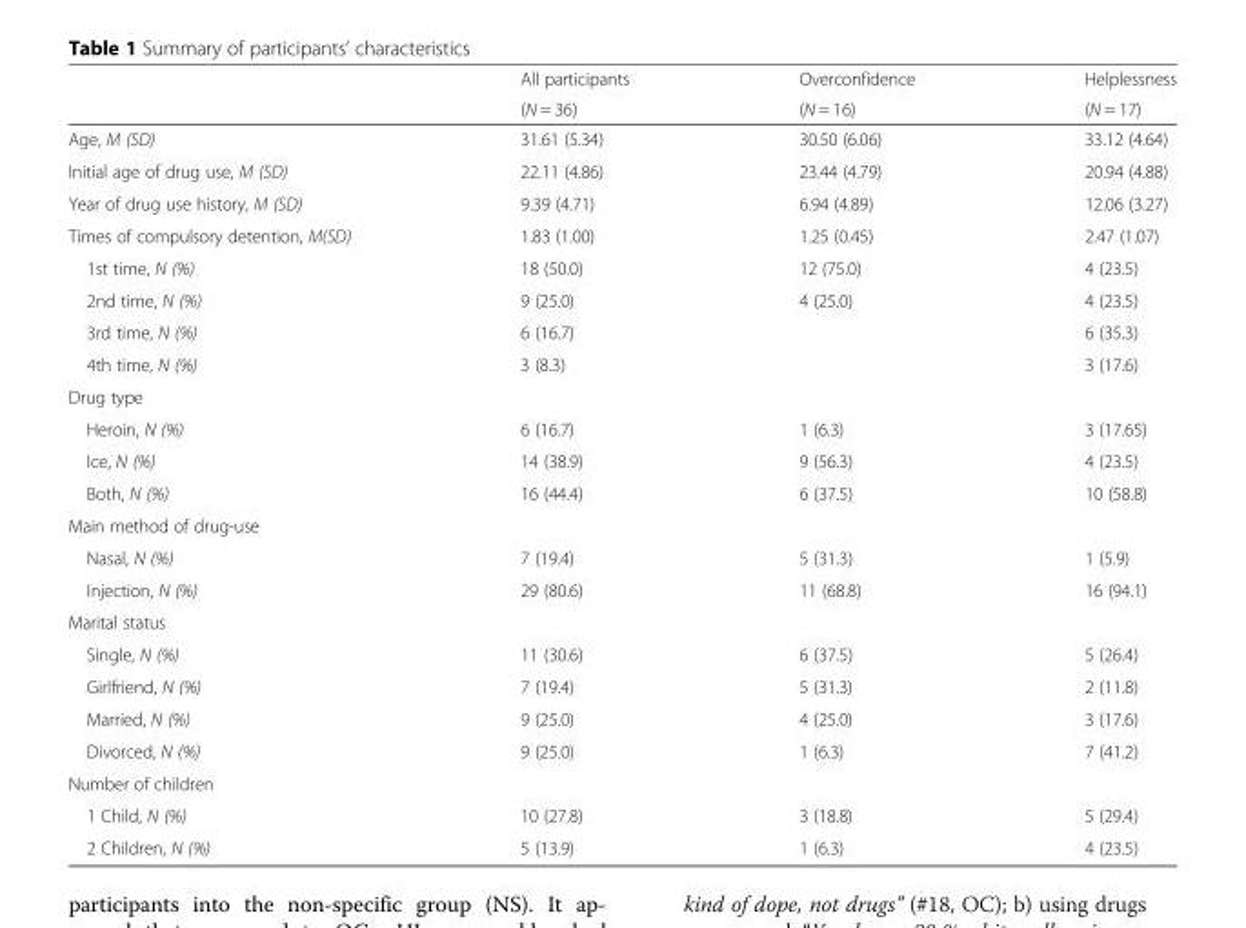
<table><thead><tr><td rowspan="2"></td><td rowspan="2">All participants (N = 36)</td><td rowspan="2">Overconfidence (N = 16)</td><td rowspan="2">Helplessness (N = 17)</td></tr><tr></tr></thead><tbody><tr><td>Age, M (SD)</td><td>31.61 (5.34)</td><td>30.50 (6.06)</td><td>33.12 (4.64)</td></tr><tr><td>Initial age of drug use, M (SD)</td><td>22.11 (4.86)</td><td>23.44 (4.79)</td><td>20.94 (4.88)</td></tr><tr><td>Year of drug use history, M (SD)</td><td>9.39 (4.71)</td><td>6.94 (4.89)</td><td>12.06 (3.27)</td></tr><tr><td>Times of compulsory detention, M(SD)</td><td>1.83 (1.00)</td><td>1.25 (0.45)</td><td>2.47 (1.07)</td></tr><tr><td>1st time, N (%)</td><td>18 (50.0)</td><td>12 (75.0)</td><td>4 (23.5)</td></tr><tr><td>2nd time, N (%)</td><td>9 (25.0)</td><td>4 (25.0)</td><td>4 (23.5)</td></tr><tr><td>3rd time, N (%)</td><td>6 (16.7)</td><td></td><td>6 (35.3)</td></tr><tr><td>4th time, N (%)</td><td>3 (8.3)</td><td></td><td>3 (17.6)</td></tr><tr><td colspan="4">Drug type</td></tr><tr><td>Heroin, N (%)</td><td>6 (16.7)</td><td>1 (6.3)</td><td>3 (17.65)</td></tr><tr><td>Ice, N (%)</td><td>14 (38.9)</td><td>9 (56.3)</td><td>4 (23.5)</td></tr><tr><td>Both, N (%)</td><td>16 (44.4)</td><td>6 (37.5)</td><td>10 (58.8)</td></tr><tr><td colspan="4">Main method of drug-use</td></tr><tr><td>Nasal, N (%)</td><td>7 (19.4)</td><td>5 (31.3)</td><td>1 (5.9)</td></tr><tr><td>Injection, N (%)</td><td>29 (80.6)</td><td>11 (68.8)</td><td>16 (94.1)</td></tr><tr><td colspan="4">Marital status</td></tr><tr><td>Single, N (%)</td><td>11 (30.6)</td><td>6 (37.5)</td><td>5 (26.4)</td></tr><tr><td>Girlfriend, N (%)</td><td>7 (19.4)</td><td>5 (31.3)</td><td>2 (11.8)</td></tr><tr><td>Married, N (%)</td><td>9 (25.0)</td><td>4 (25.0)</td><td>3 (17.6)</td></tr><tr><td>Divorced, N (%)</td><td>9 (25.0)</td><td>1 (6.3)</td><td>7 (41.2)</td></tr><tr><td colspan="4">Number of children</td></tr><tr><td>1 Child, N (%)</td><td>10 (27.8)</td><td>3 (18.8)</td><td>5 (29.4)</td></tr><tr><td>2 Children, N (%)</td><td>5 (13.9)</td><td>1 (6.3)</td><td>4 (23.5)</td></tr></tbody></table>